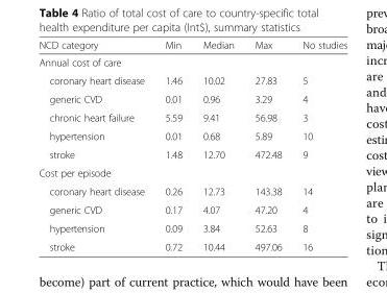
<table><thead><tr><td>NCD category</td><td>Min</td><td>Median</td><td>Max</td><td>No studies</td></tr></thead><tbody><tr><td colspan="5">Annual cost of care</td></tr><tr><td>coronary heart disease</td><td>1.46</td><td>10.02</td><td>27.83</td><td>5</td></tr><tr><td>generic CVD</td><td>0.01</td><td>0.96</td><td>3.29</td><td>4</td></tr><tr><td>chronic heart failure</td><td>5.59</td><td>9.41</td><td>56.98</td><td>3</td></tr><tr><td>hypertension</td><td>0.01</td><td>0.68</td><td>5.89</td><td>10</td></tr><tr><td>stroke</td><td>1.48</td><td>12.70</td><td>472.48</td><td>9</td></tr><tr><td colspan="5">Cost per episode</td></tr><tr><td>coronary heart disease</td><td>0.26</td><td>12.73</td><td>143.38</td><td>14</td></tr><tr><td>generic CVD</td><td>0.17</td><td>4.07</td><td>47.20</td><td>4</td></tr><tr><td>hypertension</td><td>0.09</td><td>3.84</td><td>52.63</td><td>8</td></tr><tr><td>stroke</td><td>0.72</td><td>10.44</td><td>497.06</td><td>16</td></tr></tbody></table>